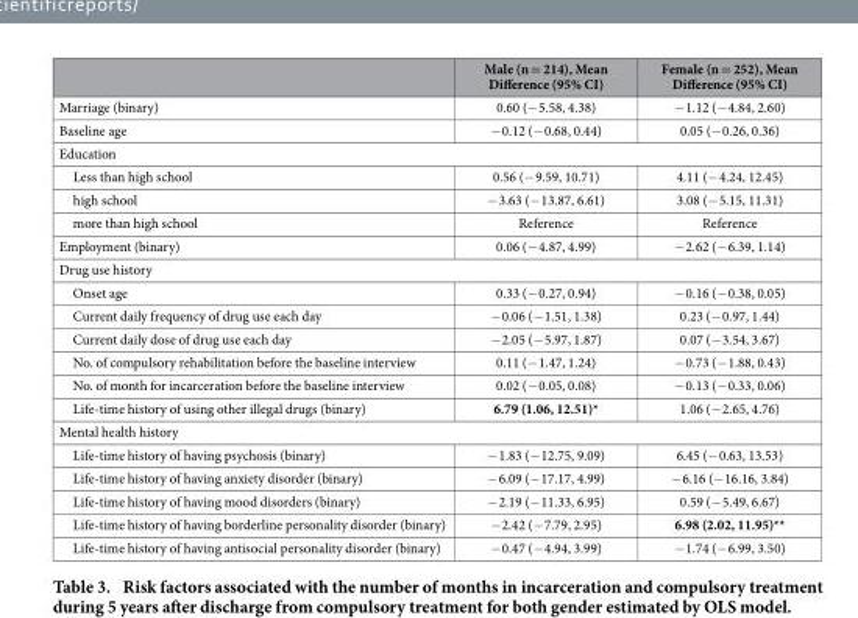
<table><thead><tr><td></td><td>Male (n = 214), Mean Difference (95% CI)</td><td>Female (n = 252), Mean Difference (95% CI)</td></tr></thead><tbody><tr><td>Marriage (binary)</td><td>0.60 (− 5.58, 4.38)</td><td>− 1.12 (− 4.84, 2.60)</td></tr><tr><td>Baseline age</td><td>− 0.12 (− 0.68, 0.44)</td><td>0.05 (− 0.26, 0.36)</td></tr><tr><td colspan="3">Education</td></tr><tr><td>Less than high school</td><td>0.56 (− 9.59, 10.71)</td><td>4.11 (− 4.24, 12.45)</td></tr><tr><td>high school</td><td>− 3.63 (− 13.87, 6.61)</td><td>3.08 (− 5.15, 11.31)</td></tr><tr><td>more than high school</td><td>Reference</td><td>Reference</td></tr><tr><td>Employment (binary)</td><td>0.06 (− 4.87, 4.99)</td><td>− 2.62 (− 6.39, 1.14)</td></tr><tr><td colspan="3">Drug use history</td></tr><tr><td>Onset age</td><td>0.33 (− 0.27, 0.94)</td><td>− 0.16 (− 0.38, 0.05)</td></tr><tr><td>Current daily frequency of drug use each day</td><td>− 0.06 (− 1.51, 1.38)</td><td>0.23 (− 0.97, 1.44)</td></tr><tr><td>Current daily dose of drug use each day</td><td>− 2.05 (− 5.97, 1.87)</td><td>0.07 (− 3.54, 3.67)</td></tr><tr><td>No. of compulsory rehabilitation before the baseline interview</td><td>0.11 (− 1.47, 1.24)</td><td>− 0.73 (− 1.88, 0.43)</td></tr><tr><td>No. of month for incarceration before the baseline interview</td><td>0.02 (− 0.05, 0.08)</td><td>− 0.13 (− 0.33, 0.06)</td></tr><tr><td>Life-time history of using other illegal drugs (binary)</td><td>6.79 (1.06, 12.51)*</td><td>1.06 (− 2.65, 4.76)</td></tr><tr><td colspan="3">Mental health history</td></tr><tr><td>Life-time history of having psychosis (binary)</td><td>− 1.83 (− 12.75, 9.09)</td><td>6.45 (− 0.63, 13.53)</td></tr><tr><td>Life-time history of having anxiety disorder (binary)</td><td>− 6.09 (− 17.17, 4.99)</td><td>− 6.16 (− 16.16, 3.84)</td></tr><tr><td>Life-time history of having mood disorders (binary)</td><td>− 2.19 (− 11.33, 6.95)</td><td>0.59 (− 5.49, 6.67)</td></tr><tr><td>Life-time history of having borderline personality disorder (binary)</td><td>− 2.42 (− 7.79, 2.95)</td><td>6.98 (2.02, 11.95)**</td></tr><tr><td>Life-time history of having antisocial personality disorder (binary)</td><td>− 0.47 (− 4.94, 3.99)</td><td>− 1.74 (− 6.99, 3.50)</td></tr></tbody></table>